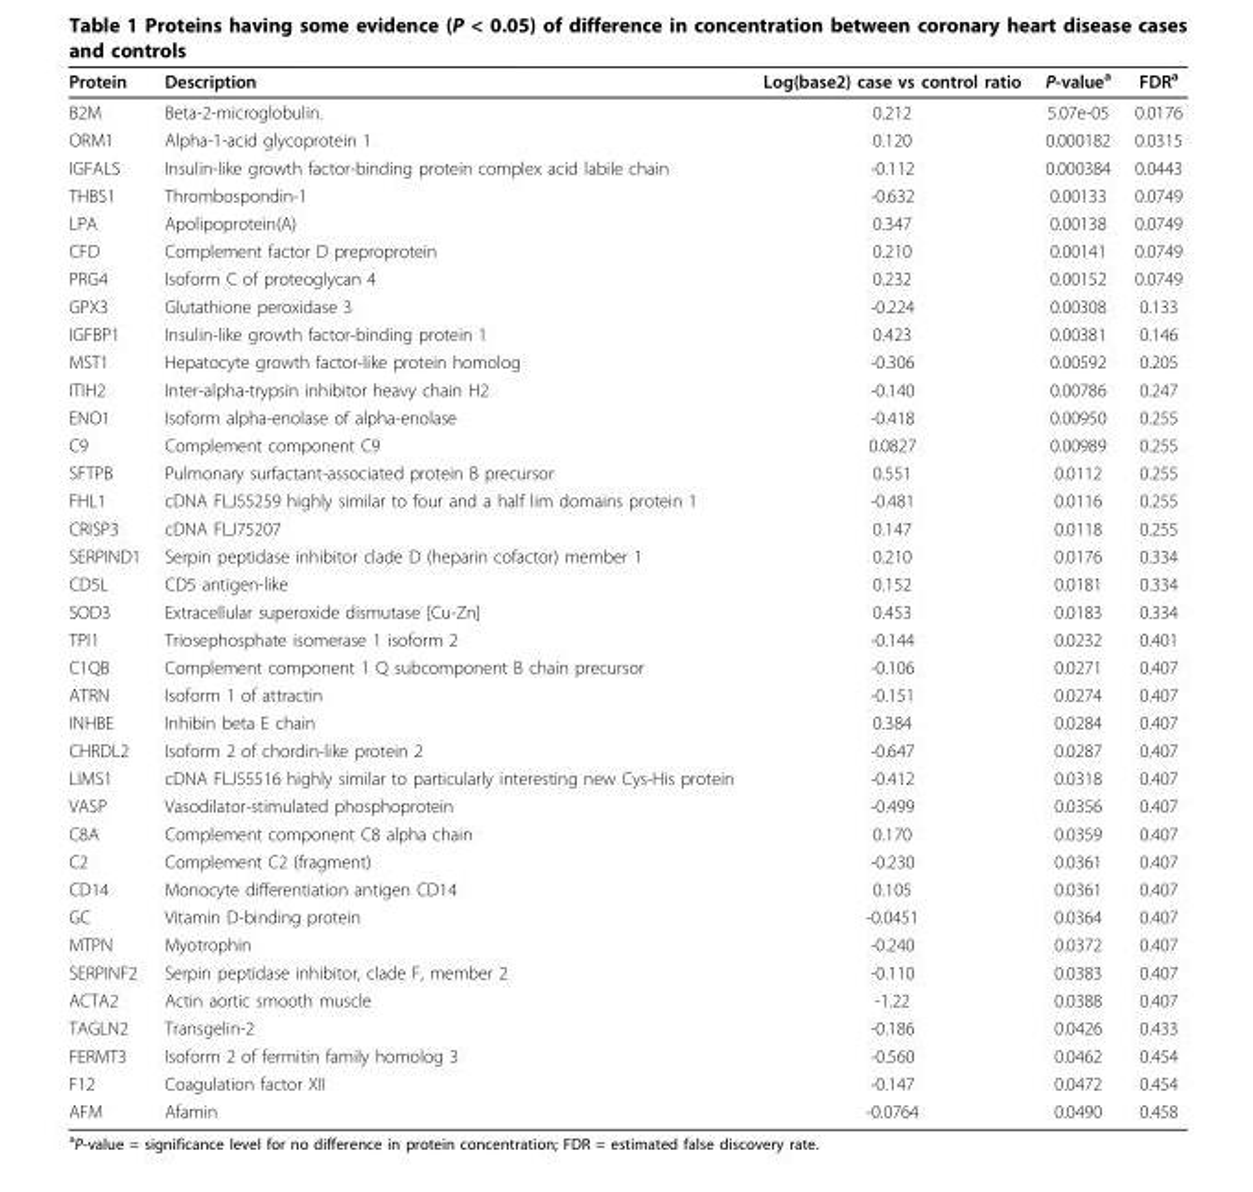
<table><thead><tr><td>Protein</td><td>Description</td><td>Log(base2) case vs control ratio</td><td>P-value<sup>a</sup></td><td>FDR<sup>a</sup></td></tr></thead><tbody><tr><td>B2M</td><td>Beta-2-microglobulin.</td><td>0.212</td><td>5.07e-05</td><td>0.0176</td></tr><tr><td>ORM1</td><td>Alpha-1-acid glycoprotein 1</td><td>0.120</td><td>0.000182</td><td>0.0315</td></tr><tr><td>IGFALS</td><td>Insulin-like growth factor-binding protein complex acid labile chain</td><td>-0.112</td><td>0.000384</td><td>0.0443</td></tr><tr><td>THBS1</td><td>Thrombospondin-1</td><td>-0.632</td><td>0.00133</td><td>0.0749</td></tr><tr><td>LPA</td><td>Apolipoprotein(A)</td><td>0.347</td><td>0.00138</td><td>0.0749</td></tr><tr><td>CFD</td><td>Complement factor D preproprotein</td><td>0.210</td><td>0.00141</td><td>0.0749</td></tr><tr><td>PRG4</td><td>Isoform C of proteoglycan 4</td><td>0.232</td><td>0.00152</td><td>0.0749</td></tr><tr><td>GPX3</td><td>Glutathione peroxidase 3</td><td>-0.224</td><td>0.00308</td><td>0.133</td></tr><tr><td>IGFBP1</td><td>Insulin-like growth factor-binding protein 1</td><td>0.423</td><td>0.00381</td><td>0.146</td></tr><tr><td>MST1</td><td>Hepatocyte growth factor-like protein homolog</td><td>-0.306</td><td>0.00592</td><td>0.205</td></tr><tr><td>ITIH2</td><td>Inter-alpha-trypsin inhibitor heavy chain H2</td><td>-0.140</td><td>0.00786</td><td>0.247</td></tr><tr><td>ENO1</td><td>Isoform alpha-enolase of alpha-enolase</td><td>-0.418</td><td>0.00950</td><td>0.255</td></tr><tr><td>C9</td><td>Complement component C9</td><td>0.0827</td><td>0.00989</td><td>0.255</td></tr><tr><td>SFTPB</td><td>Pulmonary surfactant-associated protein B precursor</td><td>0.551</td><td>0.0112</td><td>0.255</td></tr><tr><td>FHL1</td><td>cDNA FLJ55259 highly similar to four and a half lim domains protein 1</td><td>-0.481</td><td>0.0116</td><td>0.255</td></tr><tr><td>CRISP3</td><td>cDNA FLJ75207</td><td>0.147</td><td>0.0118</td><td>0.255</td></tr><tr><td>SERPIND1</td><td>Serpin peptidase inhibitor clade D (heparin cofactor) member 1</td><td>0.210</td><td>0.0176</td><td>0.334</td></tr><tr><td>CD5L</td><td>CD5 antigen-like</td><td>0.152</td><td>0.0181</td><td>0.334</td></tr><tr><td>SOD3</td><td>Extracellular superoxide dismutase [Cu-Zn]</td><td>0.453</td><td>0.0183</td><td>0.334</td></tr><tr><td>TPI1</td><td>Triosephosphate isomerase 1 isoform 2</td><td>-0.144</td><td>0.0232</td><td>0.401</td></tr><tr><td>C1QB</td><td>Complement component 1 Q subcomponent B chain precursor</td><td>-0.106</td><td>0.0271</td><td>0.407</td></tr><tr><td>ATRN</td><td>Isoform 1 of attractin</td><td>-0.151</td><td>0.0274</td><td>0.407</td></tr><tr><td>INHBE</td><td>Inhibin beta E chain</td><td>0.384</td><td>0.0284</td><td>0.407</td></tr><tr><td>CHRDL2</td><td>Isoform 2 of chordin-like protein 2</td><td>-0.647</td><td>0.0287</td><td>0.407</td></tr><tr><td>LIMS1</td><td>cDNA FLJ55516 highly similar to particularly interesting new Cys-His protein</td><td>-0.412</td><td>0.0318</td><td>0.407</td></tr><tr><td>VASP</td><td>Vasodilator-stimulated phosphoprotein</td><td>-0.499</td><td>0.0356</td><td>0.407</td></tr><tr><td>C8A</td><td>Complement component C8 alpha chain</td><td>0.170</td><td>0.0359</td><td>0.407</td></tr><tr><td>C2</td><td>Complement C2 (fragment)</td><td>-0.230</td><td>0.0361</td><td>0.407</td></tr><tr><td>CD14</td><td>Monocyte differentiation antigen CD14</td><td>0.105</td><td>0.0361</td><td>0.407</td></tr><tr><td>GC</td><td>Vitamin D-binding protein</td><td>-0.0451</td><td>0.0364</td><td>0.407</td></tr><tr><td>MTPN</td><td>Myotrophin</td><td>-0.240</td><td>0.0372</td><td>0.407</td></tr><tr><td>SERPINF2</td><td>Serpin peptidase inhibitor, clade F, member 2</td><td>-0.110</td><td>0.0383</td><td>0.407</td></tr><tr><td>ACTA2</td><td>Actin aortic smooth muscle</td><td>-1.22</td><td>0.0388</td><td>0.407</td></tr><tr><td>TAGLN2</td><td>Transgelin-2</td><td>-0.186</td><td>0.0426</td><td>0.433</td></tr><tr><td>FERMT3</td><td>Isoform 2 of fermitin family homolog 3</td><td>-0.560</td><td>0.0462</td><td>0.454</td></tr><tr><td>F12</td><td>Coagulation factor XII</td><td>-0.147</td><td>0.0472</td><td>0.454</td></tr><tr><td>AFM</td><td>Afamin</td><td>-0.0764</td><td>0.0490</td><td>0.458</td></tr></tbody></table>